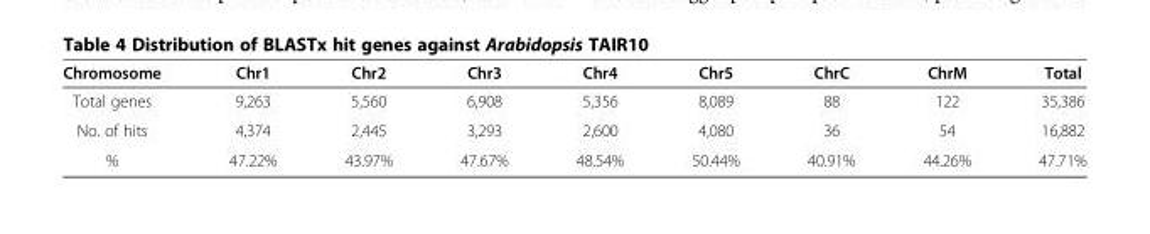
<table><thead><tr><td>Chromosome</td><td>Chr1</td><td>Chr2</td><td>Chr3</td><td>Chr4</td><td>Chr5</td><td>ChrC</td><td>ChrM</td><td>Total</td></tr></thead><tbody><tr><td>Total genes</td><td>9,263</td><td>5,560</td><td>6,908</td><td>5,356</td><td>8,089</td><td>88</td><td>122</td><td>35,386</td></tr><tr><td>No. of hits</td><td>4,374</td><td>2,445</td><td>3,293</td><td>2,600</td><td>4,080</td><td>36</td><td>54</td><td>16,882</td></tr><tr><td>%</td><td>47.22%</td><td>43.97%</td><td>47.67%</td><td>48.54%</td><td>50.44%</td><td>40.91%</td><td>44.26%</td><td>47.71%</td></tr></tbody></table>